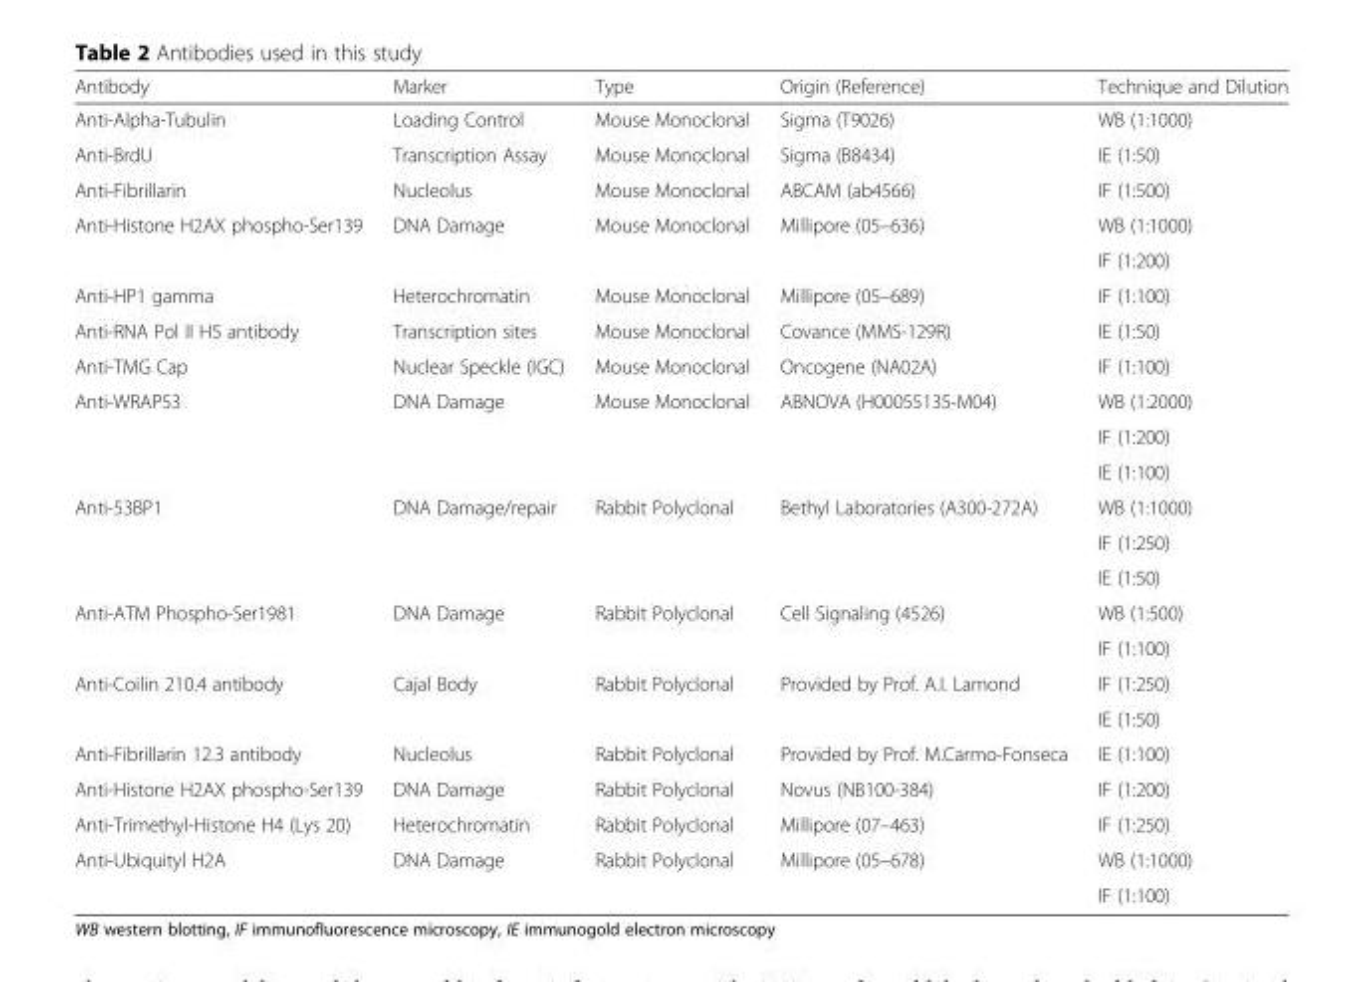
<table><thead><tr><td>Antibody</td><td>Marker</td><td>Type</td><td>Origin (Reference)</td><td>Technique and Dilution</td></tr></thead><tbody><tr><td>Anti-Alpha-Tubulin</td><td>Loading Control</td><td>Mouse Monoclonal</td><td>Sigma (T9026)</td><td>WB (1:1000)</td></tr><tr><td>Anti-BrdU</td><td>Transcription Assay</td><td>Mouse Monoclonal</td><td>Sigma (B8434)</td><td>IE (1:50)</td></tr><tr><td>Anti-Fibrillarin</td><td>Nucleolus</td><td>Mouse Monoclonal</td><td>ABCAM (ab4566)</td><td>IF (1:500)</td></tr><tr><td rowspan="2">Anti-Histone H2AX phospho-Ser139</td><td rowspan="2">DNA Damage</td><td rowspan="2">Mouse Monoclonal</td><td rowspan="2">Millipore (05–636)</td><td>WB (1:1000)</td></tr><tr><td>IF (1:200)</td></tr><tr><td>Anti-HP1 gamma</td><td>Heterochromatin</td><td>Mouse Monoclonal</td><td>Millipore (05–689)</td><td>IF (1:100)</td></tr><tr><td>Anti-RNA Pol II H5 antibody</td><td>Transcription sites</td><td>Mouse Monoclonal</td><td>Covance (MMS-129R)</td><td>IE (1:50)</td></tr><tr><td>Anti-TMG Cap</td><td>Nuclear Speckle (IGC)</td><td>Mouse Monoclonal</td><td>Oncogene (NA02A)</td><td>IF (1:100)</td></tr><tr><td rowspan="3">Anti-WRAP53</td><td rowspan="3">DNA Damage</td><td rowspan="3">Mouse Monoclonal</td><td rowspan="3">ABNOVA (H00055135-M04)</td><td>WB (1:2000)</td></tr><tr><td>IF (1:200)</td></tr><tr><td>IE (1:100)</td></tr><tr><td rowspan="3">Anti-53BP1</td><td rowspan="3">DNA Damage/repair</td><td rowspan="3">Rabbit Polyclonal</td><td rowspan="3">Bethyl Laboratories (A300-272A)</td><td>WB (1:1000)</td></tr><tr><td>IF (1:250)</td></tr><tr><td>IE (1:50)</td></tr><tr><td rowspan="2">Anti-ATM Phospho-Ser1981</td><td rowspan="2">DNA Damage</td><td rowspan="2">Rabbit Polyclonal</td><td rowspan="2">Cell Signaling (4526)</td><td>WB (1:500)</td></tr><tr><td>IF (1:100)</td></tr><tr><td rowspan="2">Anti-Coilin 210.4 antibody</td><td rowspan="2">Cajal Body</td><td rowspan="2">Rabbit Polyclonal</td><td rowspan="2">Provided by Prof. A.I. Lamond</td><td>IF (1:250)</td></tr><tr><td>IE (1:50)</td></tr><tr><td>Anti-Fibrillarin 12.3 antibody</td><td>Nucleolus</td><td>Rabbit Polyclonal</td><td>Provided by Prof. M.Carmo-Fonseca</td><td>IE (1:100)</td></tr><tr><td>Anti-Histone H2AX phospho-Ser139</td><td>DNA Damage</td><td>Rabbit Polyclonal</td><td>Novus (NB100-384)</td><td>IF (1:200)</td></tr><tr><td>Anti-Trimethyl-Histone H4 (Lys 20)</td><td>Heterochromatin</td><td>Rabbit Polyclonal</td><td>Millipore (07–463)</td><td>IF (1:250)</td></tr><tr><td rowspan="2">Anti-Ubiquityl H2A</td><td rowspan="2">DNA Damage</td><td rowspan="2">Rabbit Polyclonal</td><td rowspan="2">Millipore (05–678)</td><td>WB (1:1000)</td></tr><tr><td>IF (1:100)</td></tr></tbody></table>